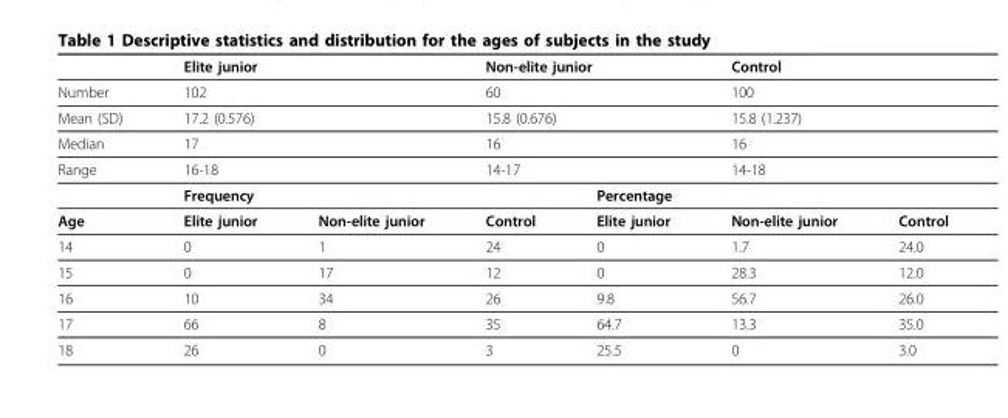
<table><thead><tr><td></td><td colspan="2">Elite junior</td><td colspan="2">Non-elite junior</td><td colspan="2">Control</td></tr></thead><tbody><tr><td>Number</td><td colspan="2">102</td><td colspan="2">60</td><td colspan="2">100</td></tr><tr><td>Mean (SD)</td><td colspan="2">17.2 (0.576)</td><td colspan="2">15.8 (0.676)</td><td colspan="2">15.8 (1.237)</td></tr><tr><td>Median</td><td colspan="2">17</td><td colspan="2">16</td><td colspan="2">16</td></tr><tr><td rowspan="2">Range</td><td colspan="2">16-18</td><td colspan="2">14-17</td><td colspan="2">14-18</td></tr><tr><td colspan="3">Frequency</td><td colspan="3">Percentage</td></tr><tr><td>Age</td><td>Elite junior</td><td>Non-elite junior</td><td>Control</td><td>Elite junior</td><td>Non-elite junior</td><td>Control</td></tr><tr><td>14</td><td>0</td><td>1</td><td>24</td><td>0</td><td>1.7</td><td>24.0</td></tr><tr><td>15</td><td>0</td><td>17</td><td>12</td><td>0</td><td>28.3</td><td>12.0</td></tr><tr><td>16</td><td>10</td><td>34</td><td>26</td><td>9.8</td><td>56.7</td><td>26.0</td></tr><tr><td>17</td><td>66</td><td>8</td><td>35</td><td>64.7</td><td>13.3</td><td>35.0</td></tr><tr><td>18</td><td>26</td><td>0</td><td>3</td><td>25.5</td><td>0</td><td>3.0</td></tr></tbody></table>